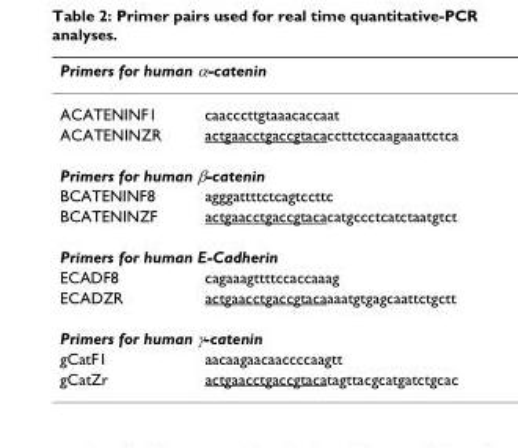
<table><thead><tr><td colspan="2">Primers for human α-catenin</td></tr><tr><td>ACATENINF1</td><td>caacccttgtaaacaccaat</td></tr></thead><tbody><tr><td>ACATENINZR</td><td>actgaacctgaccgtacaccttctccaagaaattctca</td></tr><tr><td colspan="2">Primers for human β-catenin</td></tr><tr><td>BCATENINF8</td><td>agggattttctcagtccttc</td></tr><tr><td>BCATENINZF</td><td>actgaacctgaccgtacacatgccctcatctaatgtct</td></tr><tr><td colspan="2">Primers for human E-Cadherin</td></tr><tr><td>ECADF8</td><td>cagaaagttttccaccaaag</td></tr><tr><td>ECADZR</td><td>actgaacctgaccgtacaaaatgtgagcaattctgctt</td></tr><tr><td colspan="2">Primers for human γ-catenin</td></tr><tr><td>gCatF1</td><td>aacaagaacaaccccaagtt</td></tr><tr><td>gCatZr</td><td>actgaacctgaccgtacatagttacgcatgatctgcac</td></tr></tbody></table>